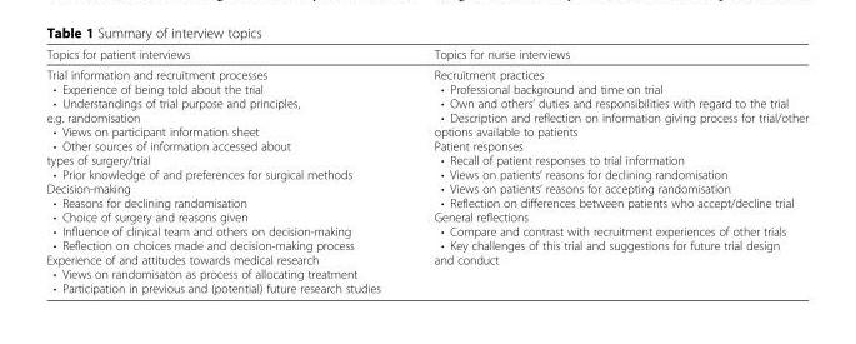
<table><thead><tr><td>Topics for patient interviews</td><td>Topics for nurse interviews</td></tr></thead><tbody><tr><td>Trial information and recruitment processes • Experience of being told about the trial • Understandings of trial purpose and principles, e.g. randomisation • Views on participant information sheet • Other sources of information accessed about types of surgery/trial • Prior knowledge of and preferences for surgical methods Decision-making • Reasons for declining randomisation • Choice of surgery and reasons given • Influence of clinical team and others on decision-making • Reflection on choices made and decision-making process Experience of and attitudes towards medical research • Views on randomisaton as process of allocating treatment • Participation in previous and (potential) future research studies</td><td>Recruitment practices • Professional background and time on trial • Own and others’ duties and responsibilities with regard to the trial • Description and reflection on information giving process for trial/other options available to patients Patient responses • Recall of patient responses to trial information • Views on patients’ reasons for declining randomisation • Views on patients’ reasons for accepting randomisation • Reflection on differences between patients who accept/decline trial General reflections • Compare and contrast with recruitment experiences of other trials • Key challenges of this trial and suggestions for future trial design and conduct</td></tr></tbody></table>